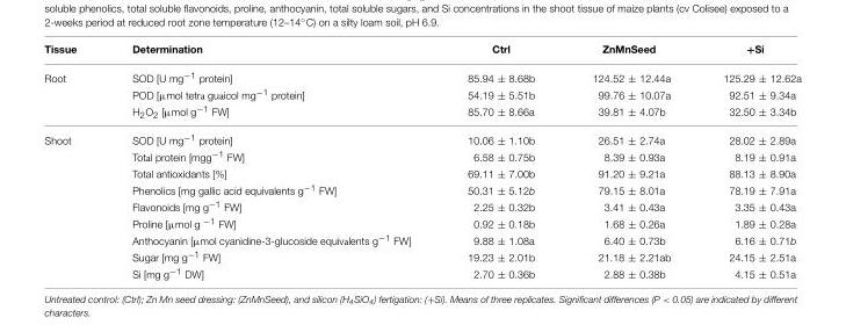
<table><thead><tr><td>Tissue</td><td>Determination</td><td>Ctrl</td><td>ZnMnSeed</td><td>+Si</td></tr></thead><tbody><tr><td rowspan="3">Root</td><td>SOD [U mg<sup>−1</sup> protein]</td><td>85.94 ± 8.68b</td><td>124.52 ± 12.44a</td><td>125.29 ± 12.62a</td></tr><tr><td>POD [µmol tetra guaicol mg<sup>−1</sup> protein]</td><td>54.19 ± 5.51b</td><td>99.76 ± 10.07a</td><td>92.51 ± 9.34a</td></tr><tr><td>H<sub>2</sub>O<sub>2</sub> [µmol g<sup>−1</sup> FW]</td><td>85.70 ± 8.66a</td><td>39.81 ± 4.07b</td><td>32.50 ± 3.34b</td></tr><tr><td rowspan="9">Shoot</td><td>SOD [U mg<sup>−1</sup> protein]</td><td>10.06 ± 1.10b</td><td>26.51 ± 2.74a</td><td>28.02 ± 2.89a</td></tr><tr><td>Total protein [mgg<sup>−1</sup> FW]</td><td>6.58 ± 0.75b</td><td>8.39 ± 0.93a</td><td>8.19 ± 0.91a</td></tr><tr><td>Total antioxidants [%]</td><td>69.11 ± 7.00b</td><td>91.20 ± 9.21a</td><td>88.13 ± 8.90a</td></tr><tr><td>Phenolics [mg gallic acid equivalents g<sup>−1</sup> FW]</td><td>50.31 ± 5.12b</td><td>79.15 ± 8.01a</td><td>78.19 ± 7.91a</td></tr><tr><td>Flavonoids [mg g<sup>−1</sup> FW]</td><td>2.25 ± 0.32b</td><td>3.41 ± 0.43a</td><td>3.35 ± 0.43a</td></tr><tr><td>Proline [µmol g <sup>−1</sup> FW]</td><td>0.92 ± 0.18b</td><td>1.68 ± 0.26a</td><td>1.89 ± 0.28a</td></tr><tr><td>Anthocyanin [µmol cyanidine-3-glucoside equivalents g<sup>−1</sup> FW]</td><td>9.88 ± 1.08a</td><td>6.40 ± 0.73b</td><td>6.16 ± 0.71b</td></tr><tr><td>Sugar [mg g<sup>−1</sup> FW]</td><td>19.23 ± 2.01b</td><td>21.18 ± 2.21ab</td><td>24.15 ± 2.51a</td></tr><tr><td>Si [mg g<sup>−1</sup> DW]</td><td>2.70 ± 0.36b</td><td>2.88 ± 0.38b</td><td>4.15 ± 0.51a</td></tr></tbody></table>